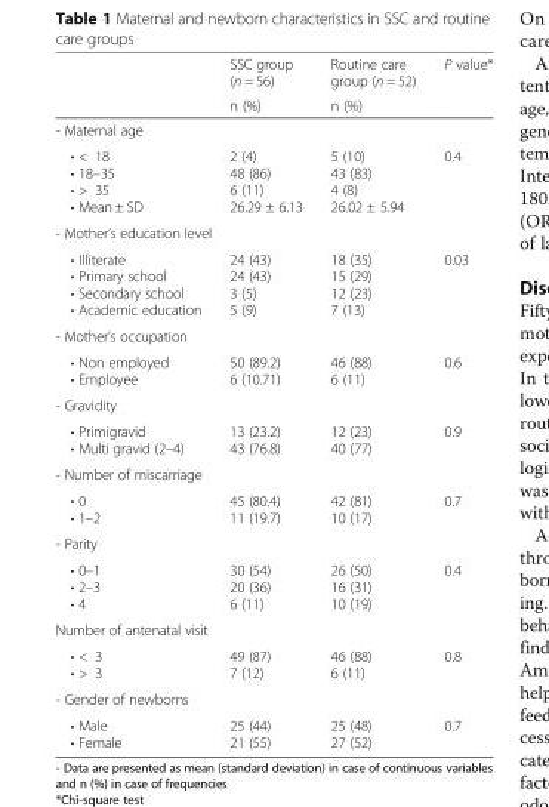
<table><thead><tr><td rowspan="2"></td><td rowspan="2">SSC group (n = 56) n (%)</td><td rowspan="2">Routine care group (n = 52) n (%)</td><td rowspan="2">P value*</td></tr><tr></tr></thead><tbody><tr><td colspan="4">- Maternal age</td></tr><tr><td>• &lt; 18 • 18–35 • &gt; 35 • Mean ± SD</td><td>2 (4) 48 (86) 6 (11) 26.29 ± 6.13</td><td>5 (10) 43 (83) 4 (8) 26.02 ± 5.94</td><td>0.4</td></tr><tr><td colspan="4">- Mother’s education level</td></tr><tr><td>• Illiterate • Primary school • Secondary school • Academic education</td><td>24 (43) 24 (43) 3 (5) 5 (9)</td><td>18 (35) 15 (29) 12 (23) 7 (13)</td><td>0.03</td></tr><tr><td colspan="4">- Mother’s occupation</td></tr><tr><td>• Non employed • Employee</td><td>50 (89.2) 6 (10.71)</td><td>46 (88) 6 (11)</td><td>0.6</td></tr><tr><td colspan="4">- Gravidity</td></tr><tr><td>• Primigravid • Multi gravid (2–4)</td><td>13 (23.2) 43 (76.8)</td><td>12 (23) 40 (77)</td><td>0.9</td></tr><tr><td colspan="4">- Number of miscarriage</td></tr><tr><td>• 0 • 1–2</td><td>45 (80.4) 11 (19.7)</td><td>42 (81) 10 (17)</td><td>0.7</td></tr><tr><td colspan="4">- Parity</td></tr><tr><td>• 0–1 • 2–3 • 4</td><td>30 (54) 20 (36) 6 (11)</td><td>26 (50) 16 (31) 10 (19)</td><td>0.4</td></tr><tr><td colspan="4">Number of antenatal visit</td></tr><tr><td>• &lt; 3 • &gt; 3</td><td>49 (87) 7 (12)</td><td>46 (88) 6 (11)</td><td>0.8</td></tr><tr><td colspan="4">- Gender of newborns</td></tr><tr><td>• Male • Female</td><td>25 (44) 21 (55)</td><td>25 (48) 27 (52)</td><td>0.7</td></tr></tbody></table>